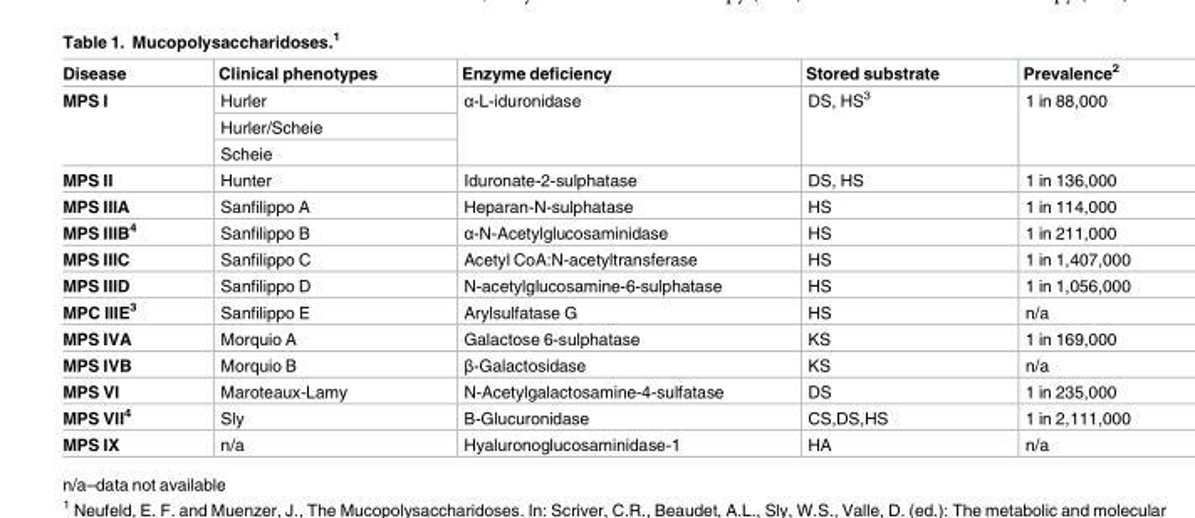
<table><thead><tr><td>Disease</td><td>Clinical phenotypes</td><td>Enzyme deficiency</td><td>Stored substrate</td><td>Prevalence<sup>2</sup></td></tr></thead><tbody><tr><td rowspan="3">MPS I</td><td>Hurler</td><td rowspan="3">α-L-iduronidase</td><td rowspan="3">DS, HS<sup>3</sup></td><td rowspan="3">1 in 88,000</td></tr><tr><td>Hurler/Scheie</td></tr><tr><td>Scheie</td></tr><tr><td>MPS II</td><td>Hunter</td><td>Iduronate-2-sulphatase</td><td>DS, HS</td><td>1 in 136,000</td></tr><tr><td>MPS IIIA</td><td>Sanfilippo A</td><td>Heparan-N-sulphatase</td><td>HS</td><td>1 in 114,000</td></tr><tr><td>MPS IIIB<sup>4</sup></td><td>Sanfilippo B</td><td>α-N-Acetylglucosaminidase</td><td>HS</td><td>1 in 211,000</td></tr><tr><td>MPS IIIC</td><td>Sanfilippo C</td><td>Acetyl CoA:N-acetyltransferase</td><td>HS</td><td>1 in 1,407,000</td></tr><tr><td>MPS IIID</td><td>Sanfilippo D</td><td>N-acetylglucosamine-6-sulphatase</td><td>HS</td><td>1 in 1,056,000</td></tr><tr><td>MPC IIIE<sup>3</sup></td><td>Sanfilippo E</td><td>Arylsulfatase G</td><td>HS</td><td>n/a</td></tr><tr><td>MPS IVA</td><td>Morquio A</td><td>Galactose 6-sulphatase</td><td>KS</td><td>1 in 169,000</td></tr><tr><td>MPS IVB</td><td>Morquio B</td><td>β-Galactosidase</td><td>KS</td><td>n/a</td></tr><tr><td>MPS VI</td><td>Maroteaux-Lamy</td><td>N-Acetylgalactosamine-4-sulfatase</td><td>DS</td><td>1 in 235,000</td></tr><tr><td>MPS VII<sup>4</sup></td><td>Sly</td><td>Β-Glucuronidase</td><td>CS,DS,HS</td><td>1 in 2,111,000</td></tr><tr><td>MPS IX</td><td>n/a</td><td>Hyaluronoglucosaminidase-1</td><td>HA</td><td>n/a</td></tr></tbody></table>